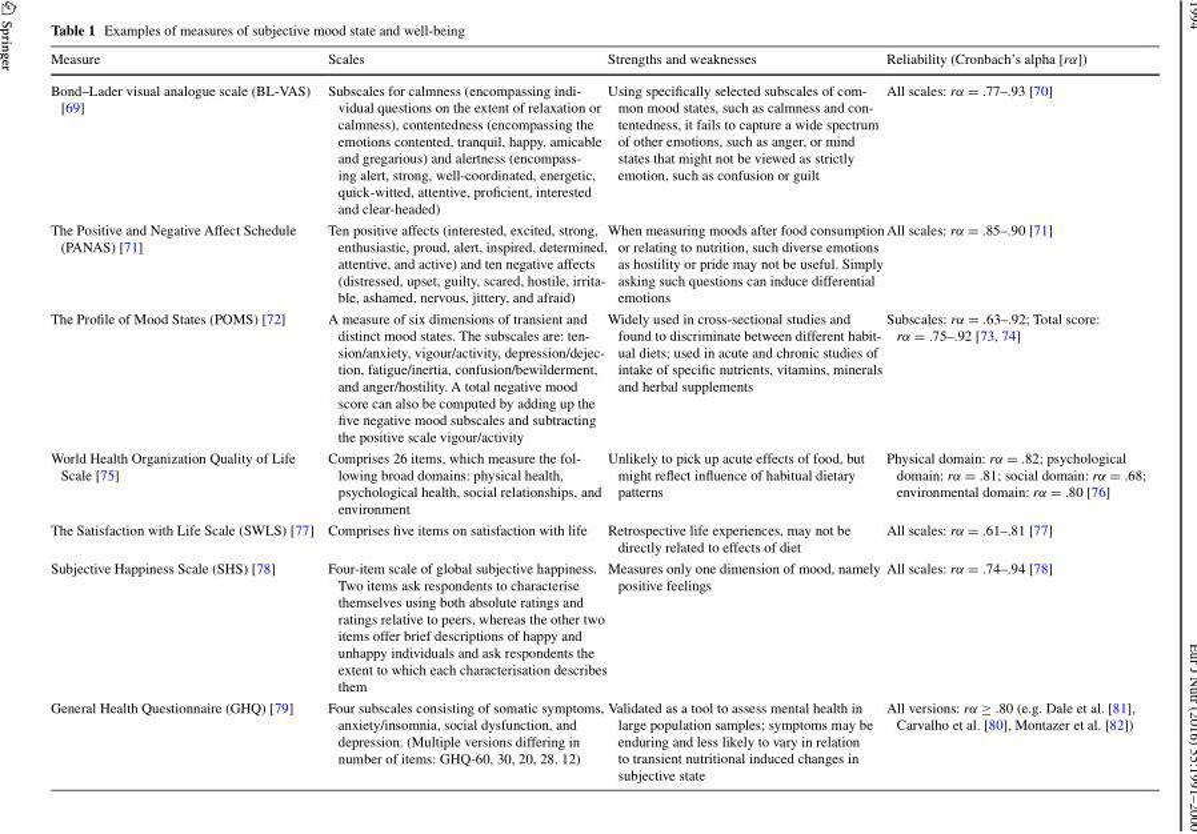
<table><thead><tr><td>Measure</td><td>Scales</td><td>Strengths and weaknesses</td><td>Reliability (Cronbach’s alpha [rα])</td></tr></thead><tbody><tr><td>Bond–Lader visual analogue scale (BL-VAS) [69]</td><td>Subscales for calmness (encompassing indi- vidual questions on the extent of relaxation or calmness), contentedness (encompassing the emotions contented, tranquil, happy, amicable and gregarious) and alertness (encompass- ing alert, strong, well-coordinated, energetic, quick-witted, attentive, proficient, interested and clear-headed)</td><td>Using specifically selected subscales of com- mon mood states, such as calmness and con- tentedness, it fails to capture a wide spectrum of other emotions, such as anger, or mind states that might not be viewed as strictly emotion, such as confusion or guilt</td><td>All scales: rα = .77–.93 [70]</td></tr><tr><td>The Positive and Negative Affect Schedule (PANAS) [71]</td><td>Ten positive affects (interested, excited, strong, enthusiastic, proud, alert, inspired, determined, attentive, and active) and ten negative affects (distressed, upset, guilty, scared, hostile, irrita- ble, ashamed, nervous, jittery, and afraid)</td><td>When measuring moods after food consumption or relating to nutrition, such diverse emotions as hostility or pride may not be useful. Simply asking such questions can induce differential emotions</td><td>All scales: rα = .85–.90 [71]</td></tr><tr><td>The Profile of Mood States (POMS) [72]</td><td>A measure of six dimensions of transient and distinct mood states. The subscales are: ten- sion/anxiety, vigour/activity, depression/dejec- tion, fatigue/inertia, confusion/bewilderment, and anger/hostility. A total negative mood score can also be computed by adding up the five negative mood subscales and subtracting the positive scale vigour/activity</td><td>Widely used in cross-sectional studies and found to discriminate between different habit- ual diets; used in acute and chronic studies of intake of specific nutrients, vitamins, minerals and herbal supplements</td><td>Subscales: rα = .63–.92; Total score: rα = .75–.92 [73, 74]</td></tr><tr><td>World Health Organization Quality of Life Scale [75]</td><td>Comprises 26 items, which measure the fol- lowing broad domains: physical health, psychological health, social relationships, and environment</td><td>Unlikely to pick up acute effects of food, but might reflect influence of habitual dietary patterns</td><td>Physical domain: rα = .82; psychological domain: rα = .81; social domain: rα = .68; environmental domain: rα = .80 [76]</td></tr><tr><td>The Satisfaction with Life Scale (SWLS) [77]</td><td>Comprises five items on satisfaction with life</td><td>Retrospective life experiences, may not be directly related to effects of diet</td><td>All scales: rα = .61–.81 [77]</td></tr><tr><td>Subjective Happiness Scale (SHS) [78]</td><td>Four-item scale of global subjective happiness. Two items ask respondents to characterise themselves using both absolute ratings and ratings relative to peers, whereas the other two items offer brief descriptions of happy and unhappy individuals and ask respondents the extent to which each characterisation describes them</td><td>Measures only one dimension of mood, namely positive feelings</td><td>All scales: rα = .74–.94 [78]</td></tr><tr><td>General Health Questionnaire (GHQ) [79]</td><td>Four subscales consisting of somatic symptoms, anxiety/insomnia, social dysfunction, and depression. (Multiple versions differing in number of items: GHQ-60, 30, 20, 28. 12)</td><td>Validated as a tool to assess mental health in large population samples; symptoms may be enduring and less likely to vary in relation to transient nutritional induced changes in subjective state</td><td>All versions: rα ≥ .80 (e.g. Dale et al. [81], Carvalho et al. [80], Montazer et al. [82])</td></tr></tbody></table>